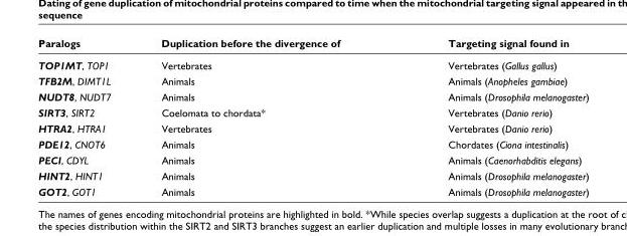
<table><thead><tr><td>Paralogs</td><td>Duplication before the divergence of</td><td>Targeting signal found in</td></tr></thead><tbody><tr><td>TOP1MT, TOP1</td><td>Vertebrates</td><td>Vertebrates (Gallus gallus)</td></tr><tr><td>TFB2M, DIMT1L</td><td>Animals</td><td>Animals (Anopheles gambiae)</td></tr><tr><td>NUDT8, NUDT7</td><td>Animals</td><td>Animals (Drosophila melanogaster)</td></tr><tr><td>SIRT3, SIRT2</td><td>Coelomata to chordata*</td><td>Vertebrates (Danio rerio)</td></tr><tr><td>HTRA2, HTRA1</td><td>Vertebrates</td><td>Vertebrates (Danio rerio)</td></tr><tr><td>PDE12, CNOT6</td><td>Animals</td><td>Chordates (Ciona intestinalis)</td></tr><tr><td>PECI, CDYL</td><td>Animals</td><td>Animals (Caenorhabditis elegans)</td></tr><tr><td>HINT2, HINT1</td><td>Animals</td><td>Animals (Drosophila melanogaster)</td></tr><tr><td>GOT2, GOT1</td><td>Animals</td><td>Animals (Drosophila melanogaster)</td></tr></tbody></table>